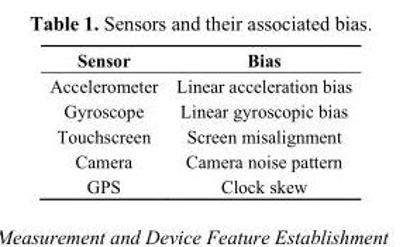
<table><thead><tr><td>Sensor</td><td>Bias</td></tr></thead><tbody><tr><td>Accelerometer</td><td>Linear acceleration bias</td></tr><tr><td>Gyroscope</td><td>Linear gyroscopic bias</td></tr><tr><td>Touchscreen</td><td>Screen misalignment</td></tr><tr><td>Camera</td><td>Camera noise pattern</td></tr><tr><td>GPS</td><td>Clock skew</td></tr></tbody></table>